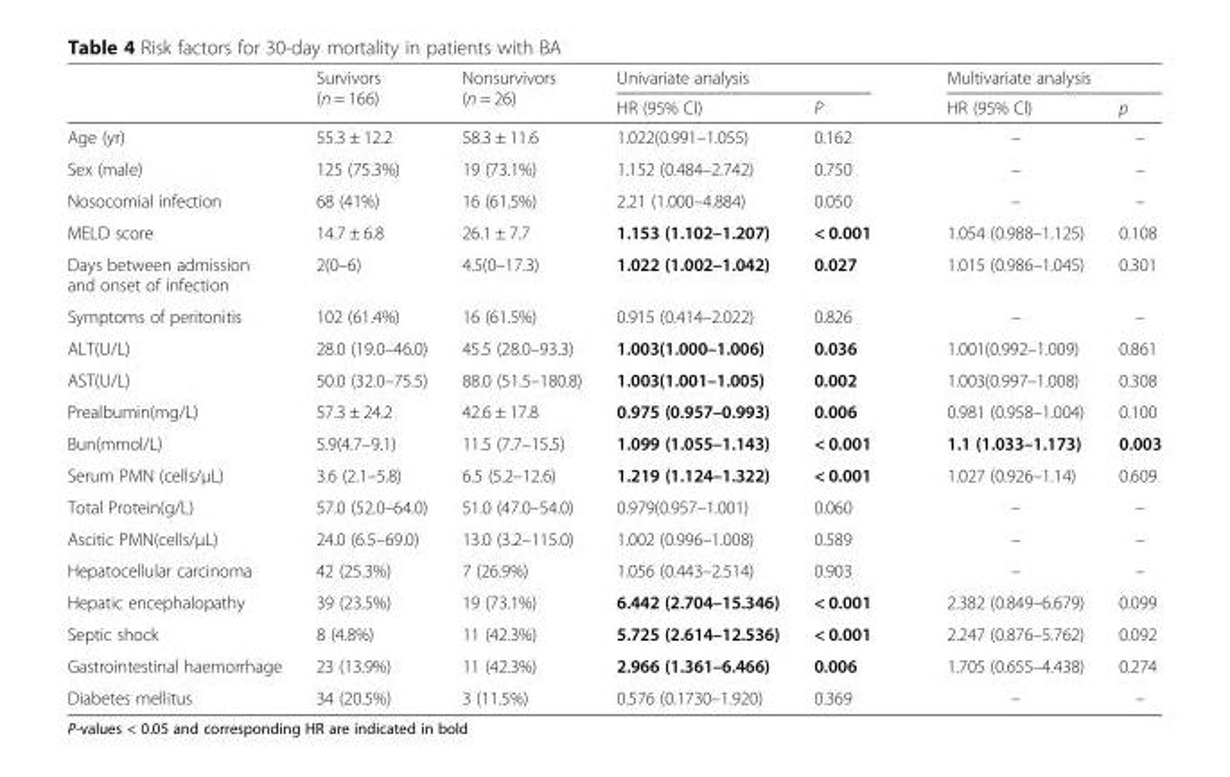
<table><thead><tr><td rowspan="2"></td><td rowspan="2">Survivors (n = 166)</td><td rowspan="2">Nonsurvivors (n = 26)</td><td colspan="2">Univariate analysis</td><td colspan="2">Multivariate analysis</td></tr><tr><td>HR (95% Cl)</td><td>P</td><td>HR (95% Cl)</td><td>p</td></tr></thead><tbody><tr><td>Age (yr)</td><td>55.3 ± 12.2</td><td>58.3 ± 11.6</td><td>1.022(0.991–1.055)</td><td>0.162</td><td>–</td><td>–</td></tr><tr><td>Sex (male)</td><td>125 (75.3%)</td><td>19 (73.1%)</td><td>1.152 (0.484–2.742)</td><td>0.750</td><td>–</td><td>–</td></tr><tr><td>Nosocomial infection</td><td>68 (41%)</td><td>16 (61.5%)</td><td>2.21 (1.000–4.884)</td><td>0.050</td><td>–</td><td>–</td></tr><tr><td>MELD score</td><td>14.7 ± 6.8</td><td>26.1 ± 7.7</td><td>1.153 (1.102–1.207)</td><td>&lt; 0.001</td><td>1.054 (0.988–1.125)</td><td>0.108</td></tr><tr><td>Days between admission and onset of infection</td><td>2(0–6)</td><td>4.5(0–17.3)</td><td>1.022 (1.002–1.042)</td><td>0.027</td><td>1.015 (0.986–1.045)</td><td>0.301</td></tr><tr><td>Symptoms of peritonitis</td><td>102 (61.4%)</td><td>16 (61.5%)</td><td>0.915 (0.414–2.022)</td><td>0.826</td><td>–</td><td>–</td></tr><tr><td>ALT(U/L)</td><td>28.0 (19.0–46.0)</td><td>45.5 (28.0–93.3)</td><td>1.003(1.000–1.006)</td><td>0.036</td><td>1.001(0.992–1.009)</td><td>0.861</td></tr><tr><td>AST(U/L)</td><td>50.0 (32.0–75.5)</td><td>88.0 (51.5–180.8)</td><td>1.003(1.001–1.005)</td><td>0.002</td><td>1.003(0.997–1.008)</td><td>0.308</td></tr><tr><td>Prealbumin(mg/L)</td><td>57.3 ± 24.2</td><td>42.6 ± 17.8</td><td>0.975 (0.957–0.993)</td><td>0.006</td><td>0.981 (0.958–1.004)</td><td>0.100</td></tr><tr><td>Bun(mmol/L)</td><td>5.9(4.7–9.1)</td><td>11.5 (7.7–15.5)</td><td>1.099 (1.055–1.143)</td><td>&lt; 0.001</td><td>1.1 (1.033–1.173)</td><td>0.003</td></tr><tr><td>Serum PMN (cells/μL)</td><td>3.6 (2.1–5.8)</td><td>6.5 (5.2–12.6)</td><td>1.219 (1.124–1.322)</td><td>&lt; 0.001</td><td>1.027 (0.926–1.14)</td><td>0.609</td></tr><tr><td>Total Protein(g/L)</td><td>57.0 (52.0–64.0)</td><td>51.0 (47.0–54.0)</td><td>0.979(0.957–1.001)</td><td>0.060</td><td>–</td><td>–</td></tr><tr><td>Ascitic PMN(cells/μL)</td><td>24.0 (6.5–69.0)</td><td>13.0 (3.2–115.0)</td><td>1.002 (0.996–1.008)</td><td>0.589</td><td>–</td><td>–</td></tr><tr><td>Hepatocellular carcinoma</td><td>42 (25.3%)</td><td>7 (26.9%)</td><td>1.056 (0.443–2.514)</td><td>0.903</td><td>–</td><td>–</td></tr><tr><td>Hepatic encephalopathy</td><td>39 (23.5%)</td><td>19 (73.1%)</td><td>6.442 (2.704–15.346)</td><td>&lt; 0.001</td><td>2.382 (0.849–6.679)</td><td>0.099</td></tr><tr><td>Septic shock</td><td>8 (4.8%)</td><td>11 (42.3%)</td><td>5.725 (2.614–12.536)</td><td>&lt; 0.001</td><td>2.247 (0.876–5.762)</td><td>0.092</td></tr><tr><td>Gastrointestinal haemorrhage</td><td>23 (13.9%)</td><td>11 (42.3%)</td><td>2.966 (1.361–6.466)</td><td>0.006</td><td>1.705 (0.655–4.438)</td><td>0.274</td></tr><tr><td>Diabetes mellitus</td><td>34 (20.5%)</td><td>3 (11.5%)</td><td>0.576 (0.1730–1.920)</td><td>0.369</td><td>–</td><td>–</td></tr></tbody></table>